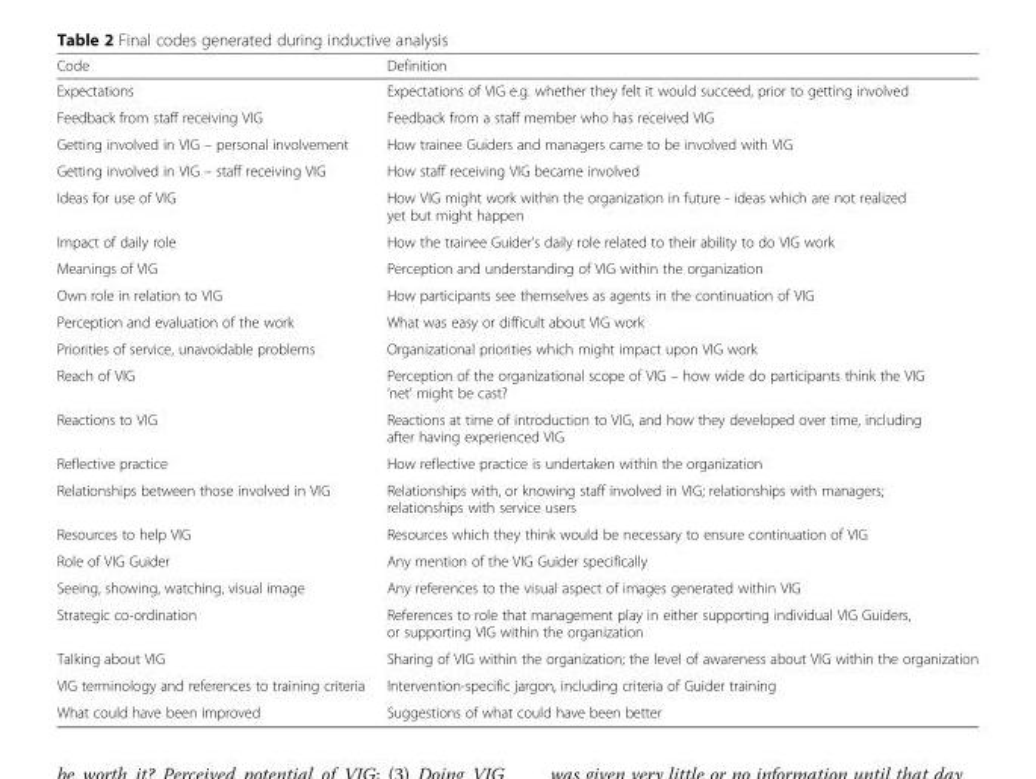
<table><thead><tr><td>Code</td><td>Definition</td></tr></thead><tbody><tr><td>Expectations</td><td>Expectations of VIG e.g. whether they felt it would succeed, prior to getting involved</td></tr><tr><td>Feedback from staff receiving VIG</td><td>Feedback from a staff member who has received VIG</td></tr><tr><td>Getting involved in VIG – personal involvement</td><td>How trainee Guiders and managers came to be involved with VIG</td></tr><tr><td>Getting involved in VIG – staff receiving VIG</td><td>How staff receiving VIG became involved</td></tr><tr><td>Ideas for use of VIG</td><td>How VIG might work within the organization in future - ideas which are not realized yet but might happen</td></tr><tr><td>Impact of daily role</td><td>How the trainee Guider’s daily role related to their ability to do VIG work</td></tr><tr><td>Meanings of VIG</td><td>Perception and understanding of VIG within the organization</td></tr><tr><td>Own role in relation to VIG</td><td>How participants see themselves as agents in the continuation of VIG</td></tr><tr><td>Perception and evaluation of the work</td><td>What was easy or difficult about VIG work</td></tr><tr><td>Priorities of service, unavoidable problems</td><td>Organizational priorities which might impact upon VIG work</td></tr><tr><td>Reach of VIG</td><td>Perception of the organizational scope of VIG – how wide do participants think the VIG ‘net’ might be cast?</td></tr><tr><td>Reactions to VIG</td><td>Reactions at time of introduction to VIG, and how they developed over time, including after having experienced VIG</td></tr><tr><td>Reflective practice</td><td>How reflective practice is undertaken within the organization</td></tr><tr><td>Relationships between those involved in VIG</td><td>Relationships with, or knowing staff involved in VIG; relationships with managers; relationships with service users</td></tr><tr><td>Resources to help VIG</td><td>Resources which they think would be necessary to ensure continuation of VIG</td></tr><tr><td>Role of VIG Guider</td><td>Any mention of the VIG Guider specifically</td></tr><tr><td>Seeing, showing, watching, visual image</td><td>Any references to the visual aspect of images generated within VIG</td></tr><tr><td>Strategic co-ordination</td><td>References to role that management play in either supporting individual VIG Guiders, or supporting VIG within the organization</td></tr><tr><td>Talking about VIG</td><td>Sharing of VIG within the organization; the level of awareness about VIG within the organization</td></tr><tr><td>VIG terminology and references to training criteria</td><td>Intervention-specific jargon, including criteria of Guider training</td></tr><tr><td>What could have been improved</td><td>Suggestions of what could have been better</td></tr></tbody></table>